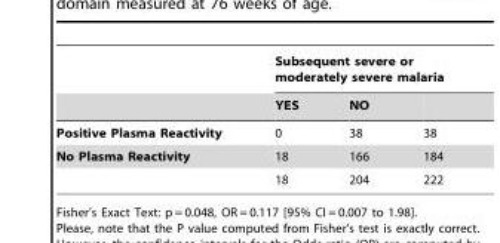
<table><thead><tr><td rowspan="2"></td><td colspan="3">Subsequent severe or moderately severe malaria</td></tr><tr><td>YES</td><td>NO</td><td></td></tr></thead><tbody><tr><td>Positive Plasma Reactivity</td><td>0</td><td>38</td><td>38</td></tr><tr><td rowspan="2">No Plasma Reactivity</td><td>18</td><td>166</td><td>184</td></tr><tr><td>18</td><td>204</td><td>222</td></tr></tbody></table>